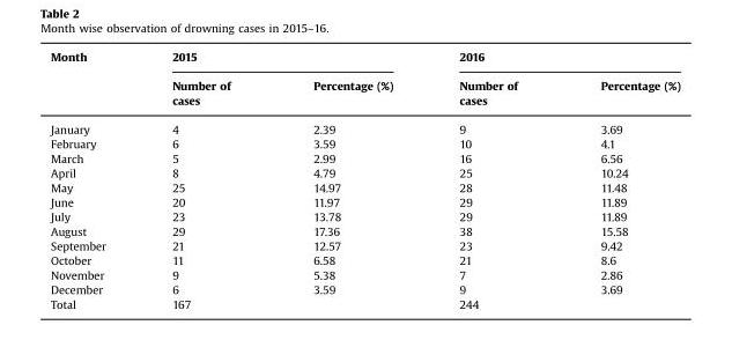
<table><thead><tr><td rowspan="2">Month</td><td colspan="2">2015</td><td colspan="2">2016</td></tr><tr><td>Number of cases</td><td>Percentage (%)</td><td>Number of cases</td><td>Percentage (%)</td></tr></thead><tbody><tr><td>January</td><td>4</td><td>2.39</td><td>9</td><td>3.69</td></tr><tr><td>February</td><td>6</td><td>3.59</td><td>10</td><td>4.1</td></tr><tr><td>March</td><td>5</td><td>2.99</td><td>16</td><td>6.56</td></tr><tr><td>April</td><td>8</td><td>4.79</td><td>25</td><td>10.24</td></tr><tr><td>May</td><td>25</td><td>14.97</td><td>28</td><td>11.48</td></tr><tr><td>June</td><td>20</td><td>11.97</td><td>29</td><td>11.89</td></tr><tr><td>July</td><td>23</td><td>13.78</td><td>29</td><td>11.89</td></tr><tr><td>August</td><td>29</td><td>17.36</td><td>38</td><td>15.58</td></tr><tr><td>September</td><td>21</td><td>12.57</td><td>23</td><td>9.42</td></tr><tr><td>October</td><td>11</td><td>6.58</td><td>21</td><td>8.6</td></tr><tr><td>November</td><td>9</td><td>5.38</td><td>7</td><td>2.86</td></tr><tr><td>December</td><td>6</td><td>3.59</td><td>9</td><td>3.69</td></tr><tr><td>Total</td><td>167</td><td></td><td>244</td><td></td></tr></tbody></table>